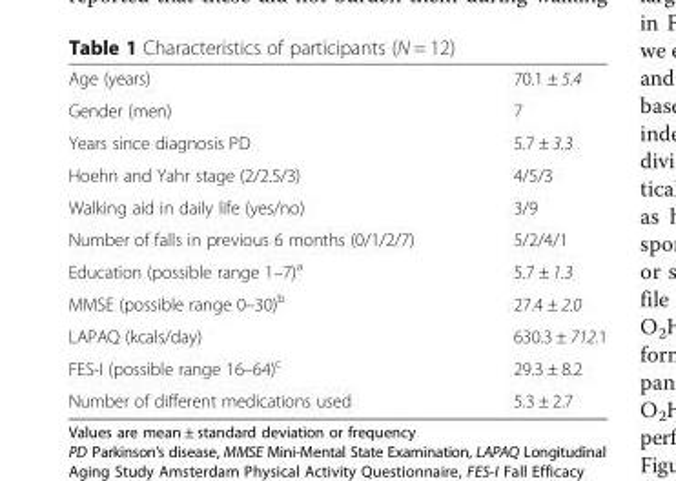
<table><tbody><tr><td>Age (years)</td><td>70.1 ± 5.4</td></tr><tr><td>Gender (men)</td><td>7</td></tr><tr><td>Years since diagnosis PD</td><td>5.7 ± 3.3</td></tr><tr><td>Hoehn and Yahr stage (2/2.5/3)</td><td>4/5/3</td></tr><tr><td>Walking aid in daily life (yes/no)</td><td>3/9</td></tr><tr><td>Number of falls in previous 6 months (0/1/2/7)</td><td>5/2/4/1</td></tr><tr><td>Education (possible range 1–7)<sup>a</sup></td><td>5.7 ± 1.3</td></tr><tr><td>MMSE (possible range 0–30)<sup>b</sup></td><td>27.4 ± 2.0</td></tr><tr><td>LAPAQ (kcals/day)</td><td>630.3 ± 712.1</td></tr><tr><td>FES-I (possible range 16–64)<sup>c</sup></td><td>29.3 ± 8.2</td></tr><tr><td>Number of different medications used</td><td>5.3 ± 2.7</td></tr></tbody></table>